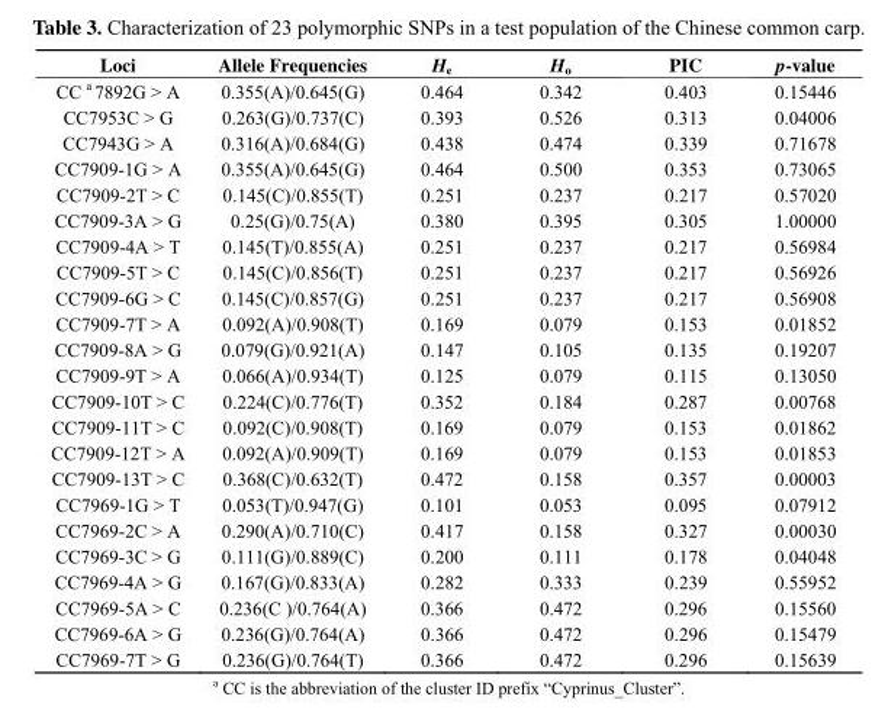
<table><thead><tr><td>Loci</td><td>Allele Frequencies</td><td>H<sub>e</sub></td><td>H<sub>o</sub></td><td>PIC</td><td>p-value</td></tr></thead><tbody><tr><td>CC a 7892G &gt; A</td><td>0.355(A)/0.645(G)</td><td>0.464</td><td>0.342</td><td>0.403</td><td>0.15446</td></tr><tr><td>CC7953C &gt; G</td><td>0.263(G)/0.737(C)</td><td>0.393</td><td>0.526</td><td>0.313</td><td>0.04006</td></tr><tr><td>CC7943G &gt; A</td><td>0.316(A)/0.684(G)</td><td>0.438</td><td>0.474</td><td>0.339</td><td>0.71678</td></tr><tr><td>CC7909-1G &gt; A</td><td>0.355(A)/0.645(G)</td><td>0.464</td><td>0.500</td><td>0.353</td><td>0.73065</td></tr><tr><td>CC7909-2T &gt; C</td><td>0.145(C)/0.855(T)</td><td>0.251</td><td>0.237</td><td>0.217</td><td>0.57020</td></tr><tr><td>CC7909-3A &gt; G</td><td>0.25(G)/0.75(A)</td><td>0.380</td><td>0.395</td><td>0.305</td><td>1.00000</td></tr><tr><td>CC7909-4A &gt; T</td><td>0.145(T)/0.855(A)</td><td>0.251</td><td>0.237</td><td>0.217</td><td>0.56984</td></tr><tr><td>CC7909-5T &gt; C</td><td>0.145(C)/0.856(T)</td><td>0.251</td><td>0.237</td><td>0.217</td><td>0.56926</td></tr><tr><td>CC7909-6G &gt; C</td><td>0.145(C)/0.857(G)</td><td>0.251</td><td>0.237</td><td>0.217</td><td>0.56908</td></tr><tr><td>CC7909-7T &gt; A</td><td>0.092(A)/0.908(T)</td><td>0.169</td><td>0.079</td><td>0.153</td><td>0.01852</td></tr><tr><td>CC7909-8A &gt; G</td><td>0.079(G)/0.921(A)</td><td>0.147</td><td>0.105</td><td>0.135</td><td>0.19207</td></tr><tr><td>CC7909-9T &gt; A</td><td>0.066(A)/0.934(T)</td><td>0.125</td><td>0.079</td><td>0.115</td><td>0.13050</td></tr><tr><td>CC7909-10T &gt; C</td><td>0.224(C)/0.776(T)</td><td>0.352</td><td>0.184</td><td>0.287</td><td>0.00768</td></tr><tr><td>CC7909-11T &gt; C</td><td>0.092(C)/0.908(T)</td><td>0.169</td><td>0.079</td><td>0.153</td><td>0.01862</td></tr><tr><td>CC7909-12T &gt; A</td><td>0.092(A)/0.909(T)</td><td>0.169</td><td>0.079</td><td>0.153</td><td>0.01853</td></tr><tr><td>CC7909-13T &gt; C</td><td>0.368(C)/0.632(T)</td><td>0.472</td><td>0.158</td><td>0.357</td><td>0.00003</td></tr><tr><td>CC7969-1G &gt; T</td><td>0.053(T)/0.947(G)</td><td>0.101</td><td>0.053</td><td>0.095</td><td>0.07912</td></tr><tr><td>CC7969-2C &gt; A</td><td>0.290(A)/0.710(C)</td><td>0.417</td><td>0.158</td><td>0.327</td><td>0.00030</td></tr><tr><td>CC7969-3C &gt; G</td><td>0.111(G)/0.889(C)</td><td>0.200</td><td>0.111</td><td>0.178</td><td>0.04048</td></tr><tr><td>CC7969-4A &gt; G</td><td>0.167(G)/0.833(A)</td><td>0.282</td><td>0.333</td><td>0.239</td><td>0.55952</td></tr><tr><td>CC7969-5A &gt; C</td><td>0.236(C )/0.764(A)</td><td>0.366</td><td>0.472</td><td>0.296</td><td>0.15560</td></tr><tr><td>CC7969-6A &gt; G</td><td>0.236(G)/0.764(A)</td><td>0.366</td><td>0.472</td><td>0.296</td><td>0.15479</td></tr><tr><td>CC7969-7T &gt; G</td><td>0.236(G)/0.764(T)</td><td>0.366</td><td>0.472</td><td>0.296</td><td>0.15639</td></tr></tbody></table>